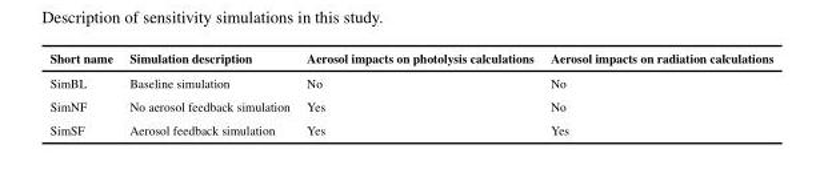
<table><thead><tr><td>Short name</td><td>Simulation description</td><td>Aerosol impacts on photolysis calculations</td><td>Aerosol impacts on radiation calculations</td></tr></thead><tbody><tr><td>SimBL</td><td>Baseline simulation</td><td>No</td><td>No</td></tr><tr><td>SimNF</td><td>No aerosol feedback simulation</td><td>Yes</td><td>No</td></tr><tr><td>SimSF</td><td>Aerosol feedback simulation</td><td>Yes</td><td>Yes</td></tr></tbody></table>